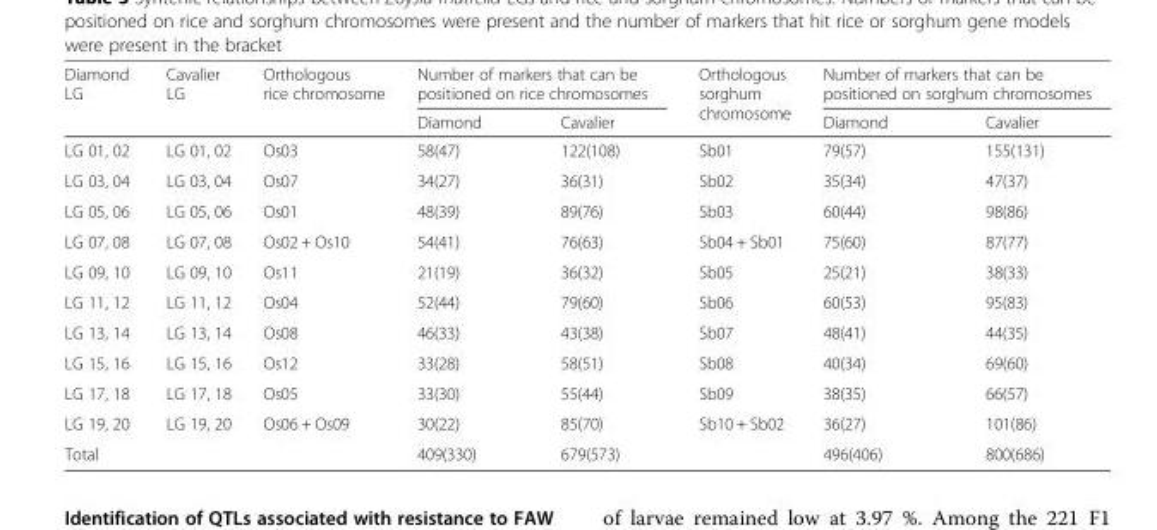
<table><thead><tr><td rowspan="2">Diamond LG</td><td rowspan="2">Cavalier LG</td><td rowspan="2">Orthologous rice chromosome</td><td colspan="2">Number of markers that can be positioned on rice chromosomes</td><td rowspan="2">Orthologous sorghum chromosome</td><td colspan="2">Number of markers that can be positioned on sorghum chromosomes</td></tr><tr><td>Diamond</td><td>Cavalier</td><td>Diamond</td><td>Cavalier</td></tr></thead><tbody><tr><td>LG 01, 02</td><td>LG 01, 02</td><td>Os03</td><td>58(47)</td><td>122(108)</td><td>Sb01</td><td>79(57)</td><td>155(131)</td></tr><tr><td>LG 03, 04</td><td>LG 03, 04</td><td>Os07</td><td>34(27)</td><td>36(31)</td><td>Sb02</td><td>35(34)</td><td>47(37)</td></tr><tr><td>LG 05, 06</td><td>LG 05, 06</td><td>Os01</td><td>48(39)</td><td>89(76)</td><td>Sb03</td><td>60(44)</td><td>98(86)</td></tr><tr><td>LG 07, 08</td><td>LG 07, 08</td><td>Os02 + Os10</td><td>54(41)</td><td>76(63)</td><td>Sb04 + Sb01</td><td>75(60)</td><td>87(77)</td></tr><tr><td>LG 09, 10</td><td>LG 09, 10</td><td>Os11</td><td>21(19)</td><td>36(32)</td><td>Sb05</td><td>25(21)</td><td>38(33)</td></tr><tr><td>LG 11, 12</td><td>LG 11, 12</td><td>Os04</td><td>52(44)</td><td>79(60)</td><td>Sb06</td><td>60(53)</td><td>95(83)</td></tr><tr><td>LG 13, 14</td><td>LG 13, 14</td><td>Os08</td><td>46(33)</td><td>43(38)</td><td>Sb07</td><td>48(41)</td><td>44(35)</td></tr><tr><td>LG 15, 16</td><td>LG 15, 16</td><td>Os12</td><td>33(28)</td><td>58(51)</td><td>Sb08</td><td>40(34)</td><td>69(60)</td></tr><tr><td>LG 17, 18</td><td>LG 17, 18</td><td>Os05</td><td>33(30)</td><td>55(44)</td><td>Sb09</td><td>38(35)</td><td>66(57)</td></tr><tr><td>LG 19, 20</td><td>LG 19, 20</td><td>Os06 + Os09</td><td>30(22)</td><td>85(70)</td><td>Sb10 + Sb02</td><td>36(27)</td><td>101(86)</td></tr><tr><td>Total</td><td></td><td></td><td>409(330)</td><td>679(573)</td><td></td><td>496(406)</td><td>800(686)</td></tr></tbody></table>